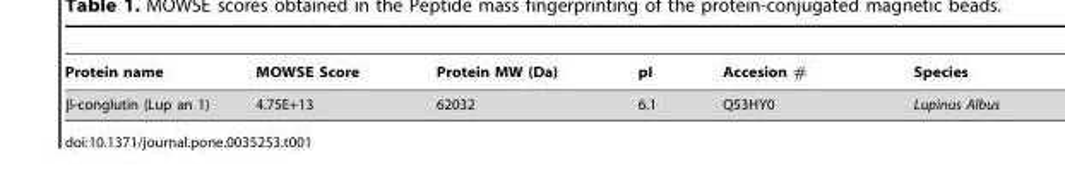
<table><thead><tr><td>Protein name</td><td>MOWSE Score</td><td>Protein MW (Da)</td><td>pI</td><td>Accesion #</td><td>Species</td></tr></thead><tbody><tr><td>β-conglutin (Lup an 1)</td><td>4.75E+13</td><td>62032</td><td>6.1</td><td>Q53HY0</td><td>Lupinus Albus</td></tr></tbody></table>